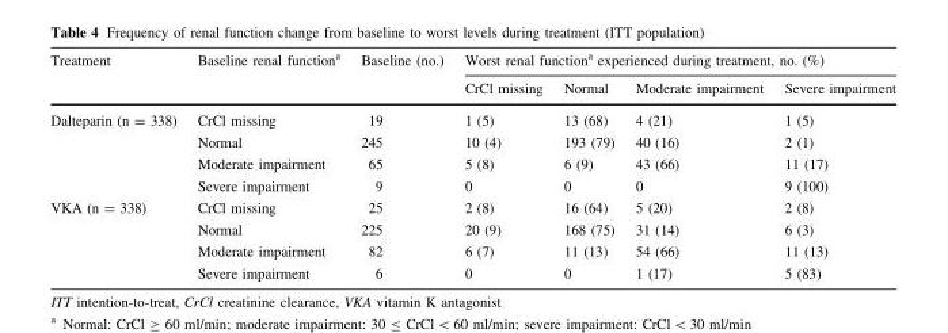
<table><thead><tr><td rowspan="2">Treatment</td><td rowspan="2">Baseline renal function<sup>a</sup></td><td rowspan="2">Baseline (no.)</td><td colspan="4">Worst renal function<sup>a</sup> experienced during treatment, no. (%)</td></tr><tr><td>CrCl missing</td><td>Normal</td><td>Moderate impairment</td><td>Severe impairment</td></tr></thead><tbody><tr><td rowspan="4">Dalteparin (n = 338)</td><td>CrCl missing</td><td>19</td><td>1 (5)</td><td>13 (68)</td><td>4 (21)</td><td>1 (5)</td></tr><tr><td>Normal</td><td>245</td><td>10 (4)</td><td>193 (79)</td><td>40 (16)</td><td>2 (1)</td></tr><tr><td>Moderate impairment</td><td>65</td><td>5 (8)</td><td>6 (9)</td><td>43 (66)</td><td>11 (17)</td></tr><tr><td>Severe impairment</td><td>9</td><td>0</td><td>0</td><td>0</td><td>9 (100)</td></tr><tr><td rowspan="4">VKA (n = 338)</td><td>CrCl missing</td><td>25</td><td>2 (8)</td><td>16 (64)</td><td>5 (20)</td><td>2 (8)</td></tr><tr><td>Normal</td><td>225</td><td>20 (9)</td><td>168 (75)</td><td>31 (14)</td><td>6 (3)</td></tr><tr><td>Moderate impairment</td><td>82</td><td>6 (7)</td><td>11 (13)</td><td>54 (66)</td><td>11 (13)</td></tr><tr><td>Severe impairment</td><td>6</td><td>0</td><td>0</td><td>1 (17)</td><td>5 (83)</td></tr></tbody></table>